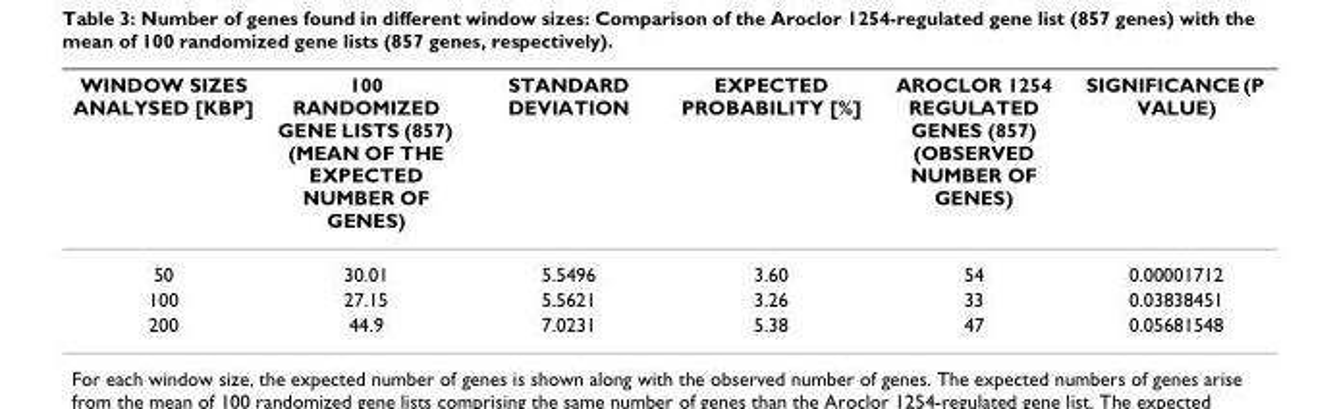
<table><thead><tr><td>WINDOW SIZES ANALYSED [KBP]</td><td>100 RANDOMIZED GENE LISTS (857) (MEAN OF THE EXPECTED NUMBER OF GENES)</td><td>STANDARD DEVIATION</td><td>EXPECTED PROBABILITY [%]</td><td>AROCLOR 1254 REGULATED GENES (857) (OBSERVED NUMBER OF GENES)</td><td>SIGNIFICANCE (P VALUE)</td></tr></thead><tbody><tr><td>50</td><td>30.01</td><td>5.5496</td><td>3.60</td><td>54</td><td>0.00001712</td></tr><tr><td>100</td><td>27.15</td><td>5.5621</td><td>3.26</td><td>33</td><td>0.03838451</td></tr><tr><td>200</td><td>44.9</td><td>7.0231</td><td>5.38</td><td>47</td><td>0.05681548</td></tr></tbody></table>